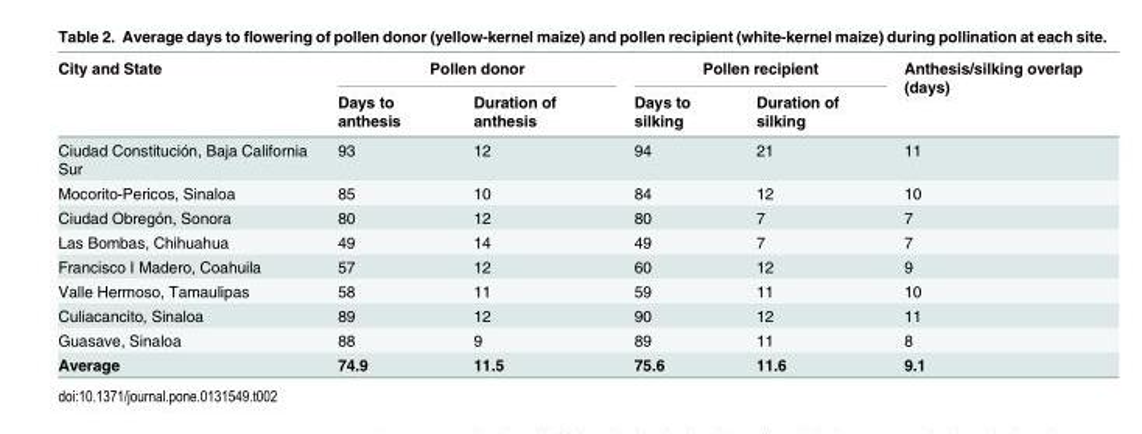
<table><thead><tr><td rowspan="2">City and State</td><td colspan="2">Pollen donor</td><td colspan="2">Pollen recipient</td><td rowspan="2">Anthesis/silking overlap (days)</td></tr><tr><td>Days to anthesis</td><td>Duration of anthesis</td><td>Days to silking</td><td>Duration of silking</td></tr></thead><tbody><tr><td>Ciudad Constitución, Baja California Sur</td><td>93</td><td>12</td><td>94</td><td>21</td><td>11</td></tr><tr><td>Mocorito-Pericos, Sinaloa</td><td>85</td><td>10</td><td>84</td><td>12</td><td>10</td></tr><tr><td>Ciudad Obregón, Sonora</td><td>80</td><td>12</td><td>80</td><td>7</td><td>7</td></tr><tr><td>Las Bombas, Chihuahua</td><td>49</td><td>14</td><td>49</td><td>7</td><td>7</td></tr><tr><td>Francisco I Madero, Coahuila</td><td>57</td><td>12</td><td>60</td><td>12</td><td>9</td></tr><tr><td>Valle Hermoso, Tamaulipas</td><td>58</td><td>11</td><td>59</td><td>11</td><td>10</td></tr><tr><td>Culiacancito, Sinaloa</td><td>89</td><td>12</td><td>90</td><td>12</td><td>11</td></tr><tr><td>Guasave, Sinaloa</td><td>88</td><td>9</td><td>89</td><td>11</td><td>8</td></tr><tr><td>Average</td><td>74.9</td><td>11.5</td><td>75.6</td><td>11.6</td><td>9.1</td></tr></tbody></table>